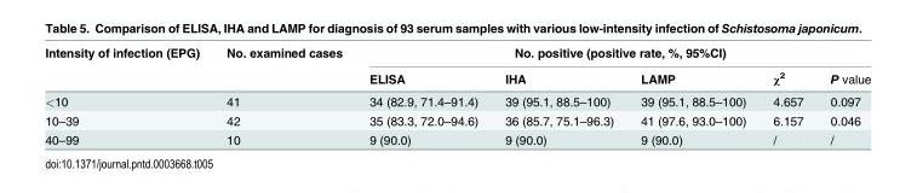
<table><thead><tr><td rowspan="2">Intensity of infection (EPG)</td><td rowspan="2">No. examined cases</td><td colspan="5">No. positive (positive rate, %, 95%CI)</td></tr><tr><td>ELISA</td><td>IHA</td><td>LAMP</td><td>χ<sup>2</sup></td><td>P value</td></tr></thead><tbody><tr><td>&lt;10</td><td>41</td><td>34 (82.9, 71.4–91.4)</td><td>39 (95.1, 88.5–100)</td><td>39 (95.1, 88.5–100)</td><td>4.657</td><td>0.097</td></tr><tr><td>10–39</td><td>42</td><td>35 (83.3, 72.0–94.6)</td><td>36 (85.7, 75.1–96.3)</td><td>41 (97.6, 93.0–100)</td><td>6.157</td><td>0.046</td></tr><tr><td>40–99</td><td>10</td><td>9 (90.0)</td><td>9 (90.0)</td><td>9 (90.0)</td><td>/</td><td>/</td></tr></tbody></table>